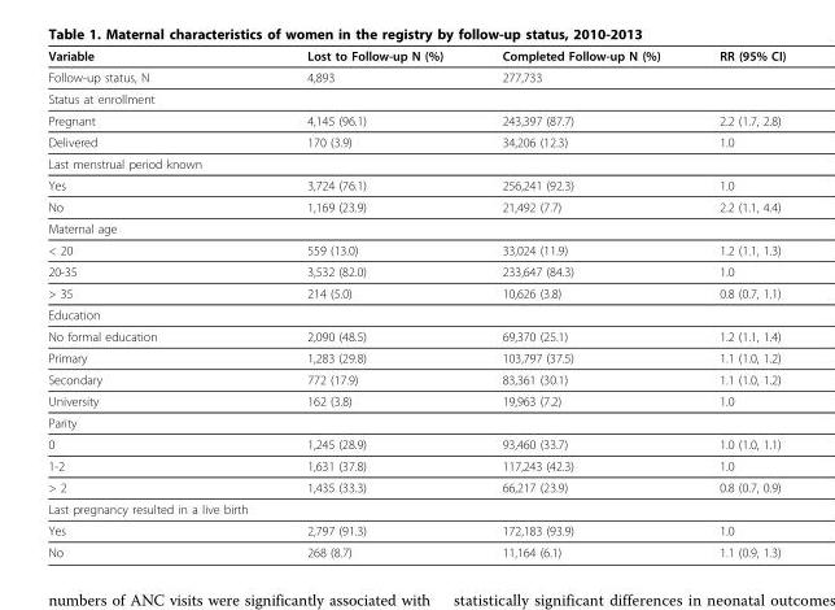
<table><thead><tr><td>Variable</td><td>Lost to Follow-up N (%)</td><td>Completed Follow-up N (%)</td><td>RR (95% CI)</td></tr></thead><tbody><tr><td>Follow-up status, N</td><td>4,893</td><td>277,733</td><td></td></tr><tr><td colspan="4">Status at enrollment</td></tr><tr><td>Pregnant</td><td>4,145 (96.1)</td><td>243,397 (87.7)</td><td>2.2 (1.7, 2.8)</td></tr><tr><td>Delivered</td><td>170 (3.9)</td><td>34,206 (12.3)</td><td>1.0</td></tr><tr><td colspan="4">Last menstrual period known</td></tr><tr><td>Yes</td><td>3,724 (76.1)</td><td>256,241 (92.3)</td><td>1.0</td></tr><tr><td>No</td><td>1,169 (23.9)</td><td>21,492 (7.7)</td><td>2.2 (1.1, 4.4)</td></tr><tr><td colspan="4">Maternal age</td></tr><tr><td>&lt; 20</td><td>559 (13.0)</td><td>33,024 (11.9)</td><td>1.2 (1.1, 1.3)</td></tr><tr><td>20-35</td><td>3,532 (82.0)</td><td>233,647 (84.3)</td><td>1.0</td></tr><tr><td>&gt; 35</td><td>214 (5.0)</td><td>10,626 (3.8)</td><td>0.8 (0.7, 1.1)</td></tr><tr><td colspan="4">Education</td></tr><tr><td>No formal education</td><td>2,090 (48.5)</td><td>69,370 (25.1)</td><td>1.2 (1.1, 1.4)</td></tr><tr><td>Primary</td><td>1,283 (29.8)</td><td>103,797 (37.5)</td><td>1.1 (1.0, 1.2)</td></tr><tr><td>Secondary</td><td>772 (17.9)</td><td>83,361 (30.1)</td><td>1.1 (1.0, 1.2)</td></tr><tr><td>University</td><td>162 (3.8)</td><td>19,963 (7.2)</td><td>1.0</td></tr><tr><td colspan="4">Parity</td></tr><tr><td>0</td><td>1,245 (28.9)</td><td>93,460 (33.7)</td><td>1.0 (1.0, 1.1)</td></tr><tr><td>1-2</td><td>1,631 (37.8)</td><td>117,243 (42.3)</td><td>1.0</td></tr><tr><td>&gt; 2</td><td>1,435 (33.3)</td><td>66,217 (23.9)</td><td>0.8 (0.7, 0.9)</td></tr><tr><td colspan="4">Last pregnancy resulted in a live birth</td></tr><tr><td>Yes</td><td>2,797 (91.3)</td><td>172,183 (93.9)</td><td>1.0</td></tr><tr><td>No</td><td>268 (8.7)</td><td>11,164 (6.1)</td><td>1.1 (0.9, 1.3)</td></tr></tbody></table>